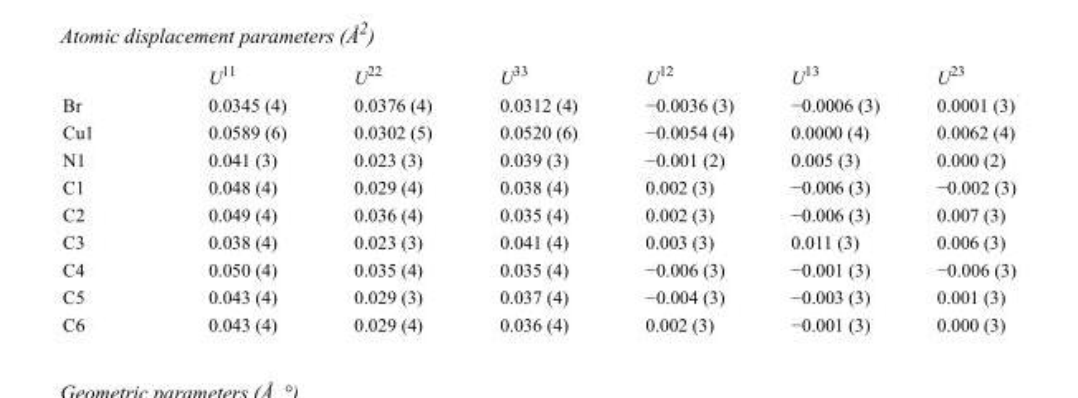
<table><thead><tr><td></td><td>U<sup>11</sup></td><td>U<sup>22</sup></td><td>U<sup>33</sup></td><td>U<sup>12</sup></td><td>U<sup>13</sup></td><td>U<sup>23</sup></td></tr></thead><tbody><tr><td>Br</td><td>0.0345 (4)</td><td>0.0376 (4)</td><td>0.0312 (4)</td><td>−0.0036 (3)</td><td>−0.0006 (3)</td><td>0.0001 (3)</td></tr><tr><td>Cu1</td><td>0.0589 (6)</td><td>0.0302 (5)</td><td>0.0520 (6)</td><td>−0.0054 (4)</td><td>0.0000 (4)</td><td>0.0062 (4)</td></tr><tr><td>N1</td><td>0.041 (3)</td><td>0.023 (3)</td><td>0.039 (3)</td><td>−0.001 (2)</td><td>0.005 (3)</td><td>0.000 (2)</td></tr><tr><td>C1</td><td>0.048 (4)</td><td>0.029 (4)</td><td>0.038 (4)</td><td>0.002 (3)</td><td>−0.006 (3)</td><td>−0.002 (3)</td></tr><tr><td>C2</td><td>0.049 (4)</td><td>0.036 (4)</td><td>0.035 (4)</td><td>0.002 (3)</td><td>−0.006 (3)</td><td>0.007 (3)</td></tr><tr><td>C3</td><td>0.038 (4)</td><td>0.023 (3)</td><td>0.041 (4)</td><td>0.003 (3)</td><td>0.011 (3)</td><td>0.006 (3)</td></tr><tr><td>C4</td><td>0.050 (4)</td><td>0.035 (4)</td><td>0.035 (4)</td><td>−0.006 (3)</td><td>−0.001 (3)</td><td>−0.006 (3)</td></tr><tr><td>C5</td><td>0.043 (4)</td><td>0.029 (3)</td><td>0.037 (4)</td><td>−0.004 (3)</td><td>−0.003 (3)</td><td>0.001 (3)</td></tr><tr><td>C6</td><td>0.043 (4)</td><td>0.029 (4)</td><td>0.036 (4)</td><td>0.002 (3)</td><td>−0.001 (3)</td><td>0.000 (3)</td></tr></tbody></table>